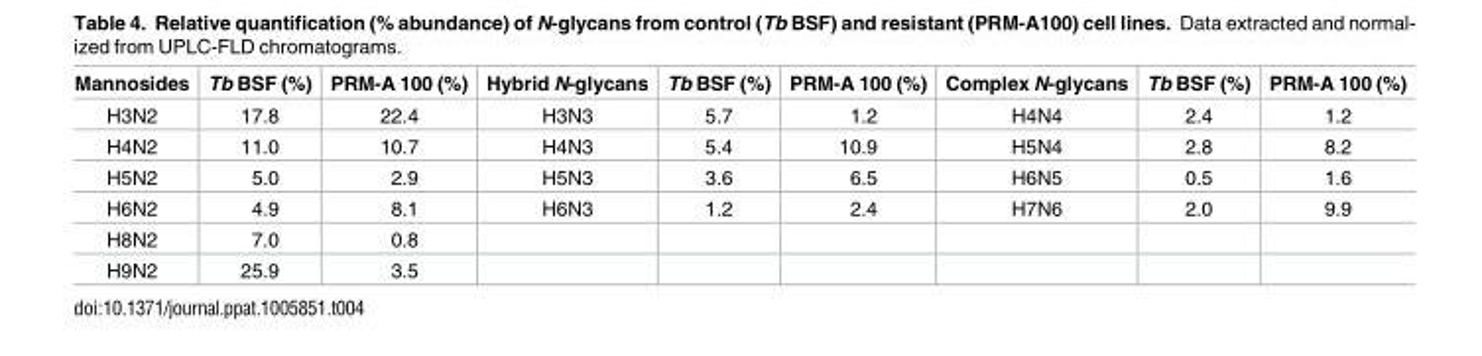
<table><thead><tr><td>Mannosides</td><td>Tb BSF (%)</td><td>PRM-A 100 (%)</td><td>Hybrid N-glycans</td><td>Tb BSF (%)</td><td>PRM-A 100 (%)</td><td>Complex N-glycans</td><td>Tb BSF (%)</td><td>PRM-A 100 (%)</td></tr></thead><tbody><tr><td>H3N2</td><td>17.8</td><td>22.4</td><td>H3N3</td><td>5.7</td><td>1.2</td><td>H4N4</td><td>2.4</td><td>1.2</td></tr><tr><td>H4N2</td><td>11.0</td><td>10.7</td><td>H4N3</td><td>5.4</td><td>10.9</td><td>H5N4</td><td>2.8</td><td>8.2</td></tr><tr><td>H5N2</td><td>5.0</td><td>2.9</td><td>H5N3</td><td>3.6</td><td>6.5</td><td>H6N5</td><td>0.5</td><td>1.6</td></tr><tr><td>H6N2</td><td>4.9</td><td>8.1</td><td>H6N3</td><td>1.2</td><td>2.4</td><td>H7N6</td><td>2.0</td><td>9.9</td></tr><tr><td>H8N2</td><td>7.0</td><td>0.8</td><td></td><td></td><td></td><td></td><td></td><td></td></tr><tr><td>H9N2</td><td>25.9</td><td>3.5</td><td></td><td></td><td></td><td></td><td></td><td></td></tr></tbody></table>